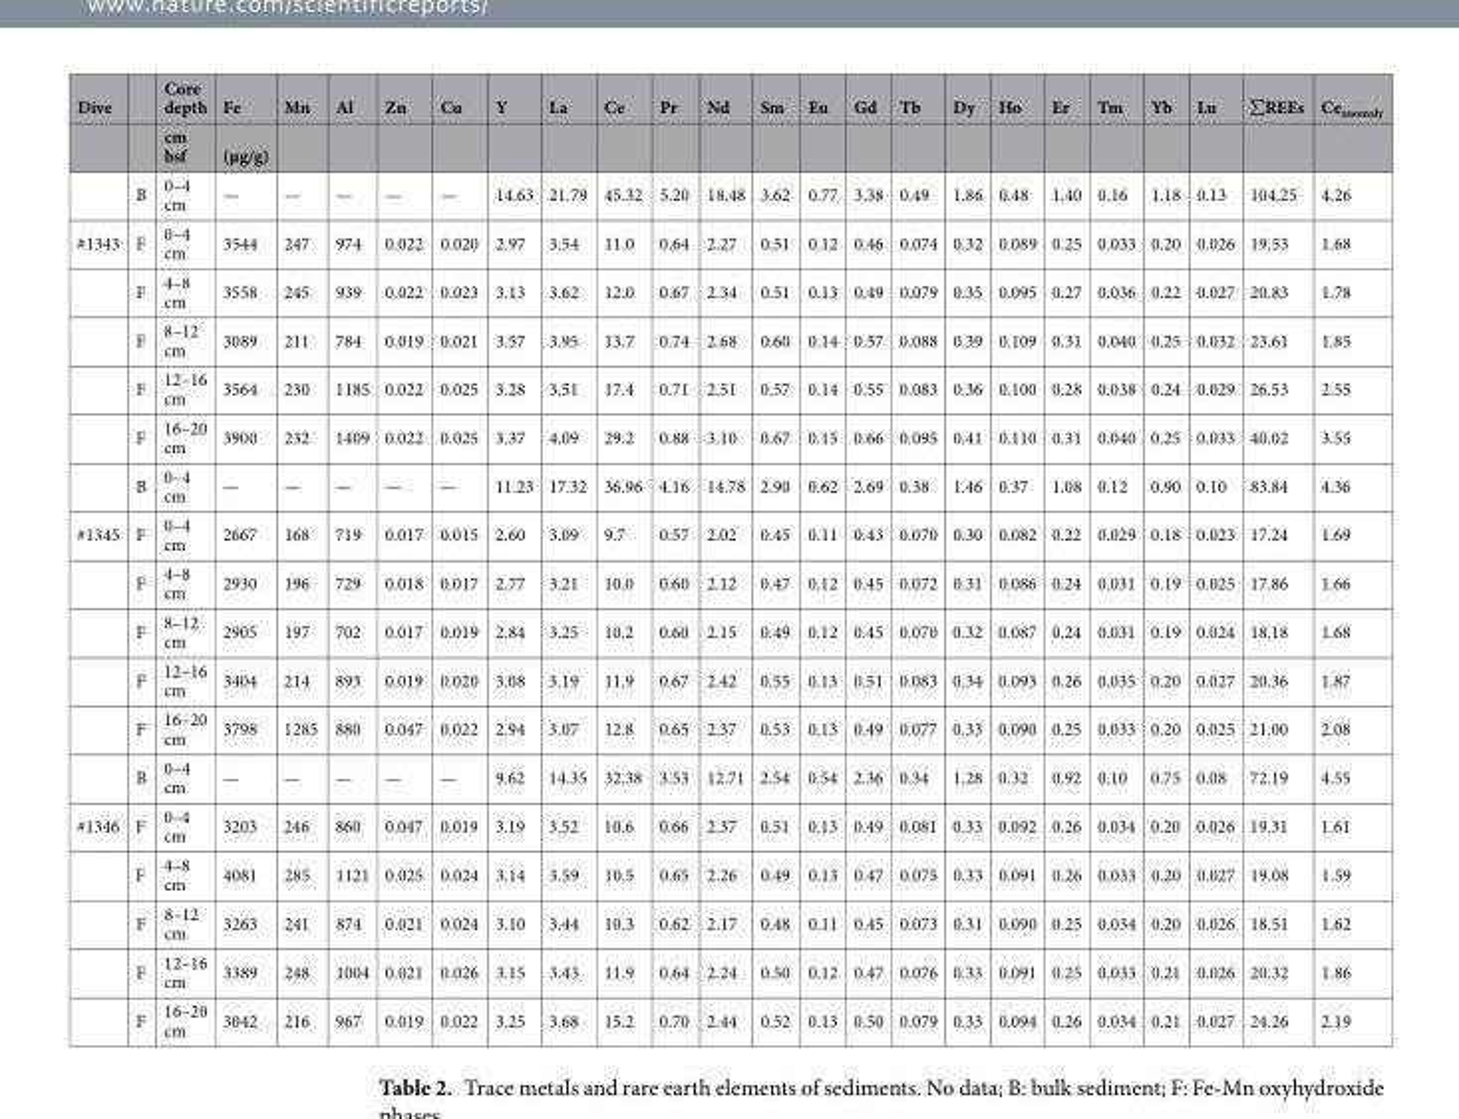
<table><thead><tr><td rowspan="2">Dive</td><td rowspan="2"></td><td rowspan="2">Core depth cm bsf</td><td rowspan="2">Fe (µg/g)</td><td rowspan="2">Mn</td><td rowspan="2">Al</td><td rowspan="2">Zn</td><td rowspan="2">Cu</td><td rowspan="2">Y</td><td rowspan="2">La</td><td rowspan="2">Ce</td><td rowspan="2">Pr</td><td rowspan="2">Nd</td><td rowspan="2">Sm</td><td rowspan="2">Eu</td><td rowspan="2">Gd</td><td rowspan="2">Tb</td><td rowspan="2">Dy</td><td rowspan="2">Ho</td><td rowspan="2">Er</td><td rowspan="2">Tm</td><td rowspan="2">Yb</td><td rowspan="2">Lu</td><td rowspan="2">∑REEs</td><td rowspan="2">Ce<sub>anomaly</sub></td></tr><tr></tr></thead><tbody><tr><td></td><td>B</td><td>0–4 cm</td><td>—</td><td>—</td><td>—</td><td>—</td><td>—</td><td>14.63</td><td>21.79</td><td>45.32</td><td>5.20</td><td>18.48</td><td>3.62</td><td>0.77</td><td>3.38</td><td>0.49</td><td>1.86</td><td>0.48</td><td>1.40</td><td>0.16</td><td>1.18</td><td>0.13</td><td>104.25</td><td>4.26</td></tr><tr><td rowspan="6">#1343</td><td>F</td><td>0–4 cm</td><td>3544</td><td>247</td><td>974</td><td>0.022</td><td>0.020</td><td>2.97</td><td>3.54</td><td>11.0</td><td>0.64</td><td>2.27</td><td>0.51</td><td>0.12</td><td>0.46</td><td>0.074</td><td>0.32</td><td>0.089</td><td>0.25</td><td>0.033</td><td>0.20</td><td>0.026</td><td>19.53</td><td>1.68</td></tr><tr><td>F</td><td>4–8 cm</td><td>3558</td><td>245</td><td>939</td><td>0.022</td><td>0.023</td><td>3.13</td><td>3.62</td><td>12.0</td><td>0.67</td><td>2.34</td><td>0.51</td><td>0.13</td><td>0.49</td><td>0.079</td><td>0.35</td><td>0.095</td><td>0.27</td><td>0.036</td><td>0.22</td><td>0.027</td><td>20.83</td><td>1.78</td></tr><tr><td>F</td><td>8–12 cm</td><td>3089</td><td>211</td><td>784</td><td>0.019</td><td>0.021</td><td>3.57</td><td>3.95</td><td>13.7</td><td>0.74</td><td>2.68</td><td>0.60</td><td>0.14</td><td>0.57</td><td>0.088</td><td>0.39</td><td>0.109</td><td>0.31</td><td>0.040</td><td>0.25</td><td>0.032</td><td>23.61</td><td>1.85</td></tr><tr><td>F</td><td>12–16 cm</td><td>3564</td><td>230</td><td>1185</td><td>0.022</td><td>0.025</td><td>3.28</td><td>3.51</td><td>17.4</td><td>0.71</td><td>2.51</td><td>0.57</td><td>0.14</td><td>0.55</td><td>0.083</td><td>0.36</td><td>0.100</td><td>0.28</td><td>0.038</td><td>0.24</td><td>0.029</td><td>26.53</td><td>2.55</td></tr><tr><td>F</td><td>16–20 cm</td><td>3900</td><td>232</td><td>1409</td><td>0.022</td><td>0.025</td><td>3.37</td><td>4.09</td><td>29.2</td><td>0.88</td><td>3.10</td><td>0.67</td><td>0.15</td><td>0.66</td><td>0.095</td><td>0.41</td><td>0.110</td><td>0.31</td><td>0.040</td><td>0.25</td><td>0.033</td><td>40.02</td><td>3.55</td></tr><tr><td>B</td><td>0–4 cm</td><td>—</td><td>—</td><td>—</td><td>—</td><td>—</td><td>11.23</td><td>17.32</td><td>36.96</td><td>4.16</td><td>14.78</td><td>2.90</td><td>0.62</td><td>2.69</td><td>0.38</td><td>1.46</td><td>0.37</td><td>1.08</td><td>0.12</td><td>0.90</td><td>0.10</td><td>83.84</td><td>4.36</td></tr><tr><td rowspan="6">#1345</td><td>F</td><td>0–4 cm</td><td>2667</td><td>168</td><td>719</td><td>0.017</td><td>0.015</td><td>2.60</td><td>3.09</td><td>9.7</td><td>0.57</td><td>2.02</td><td>0.45</td><td>0.11</td><td>0.43</td><td>0.070</td><td>0.30</td><td>0.082</td><td>0.22</td><td>0.029</td><td>0.18</td><td>0.023</td><td>17.24</td><td>1.69</td></tr><tr><td>F</td><td>4–8 cm</td><td>2930</td><td>196</td><td>729</td><td>0.018</td><td>0.017</td><td>2.77</td><td>3.21</td><td>10.0</td><td>0.60</td><td>2.12</td><td>0.47</td><td>0.12</td><td>0.45</td><td>0.072</td><td>0.31</td><td>0.086</td><td>0.24</td><td>0.031</td><td>0.19</td><td>0.025</td><td>17.86</td><td>1.66</td></tr><tr><td>F</td><td>8–12 cm</td><td>2905</td><td>197</td><td>702</td><td>0.017</td><td>0.019</td><td>2.84</td><td>3.25</td><td>10.2</td><td>0.60</td><td>2.15</td><td>0.49</td><td>0.12</td><td>0.45</td><td>0.070</td><td>0.32</td><td>0.087</td><td>0.24</td><td>0.031</td><td>0.19</td><td>0.024</td><td>18.18</td><td>1.68</td></tr><tr><td>F</td><td>12–16 cm</td><td>3404</td><td>214</td><td>893</td><td>0.019</td><td>0.020</td><td>3.08</td><td>3.19</td><td>11.9</td><td>0.67</td><td>2.42</td><td>0.55</td><td>0.13</td><td>0.51</td><td>0.083</td><td>0.34</td><td>0.093</td><td>0.26</td><td>0.035</td><td>0.20</td><td>0.027</td><td>20.36</td><td>1.87</td></tr><tr><td>F</td><td>16–20 cm</td><td>3798</td><td>1285</td><td>880</td><td>0.047</td><td>0.022</td><td>2.94</td><td>3.07</td><td>12.8</td><td>0.65</td><td>2.37</td><td>0.53</td><td>0.13</td><td>0.49</td><td>0.077</td><td>0.33</td><td>0.090</td><td>0.25</td><td>0.033</td><td>0.20</td><td>0.025</td><td>21.00</td><td>2.08</td></tr><tr><td>B</td><td>0–4 cm</td><td>—</td><td>—</td><td>—</td><td>—</td><td>—</td><td>9.62</td><td>14.35</td><td>32.38</td><td>3.53</td><td>12.71</td><td>2.54</td><td>0.54</td><td>2.36</td><td>0.34</td><td>1.28</td><td>0.32</td><td>0.92</td><td>0.10</td><td>0.75</td><td>0.08</td><td>72.19</td><td>4.55</td></tr><tr><td rowspan="5">#1346</td><td>F</td><td>0–4 cm</td><td>3203</td><td>246</td><td>860</td><td>0.047</td><td>0.019</td><td>3.19</td><td>3.52</td><td>10.6</td><td>0.66</td><td>2.37</td><td>0.51</td><td>0.13</td><td>0.49</td><td>0.081</td><td>0.33</td><td>0.092</td><td>0.26</td><td>0.034</td><td>0.20</td><td>0.026</td><td>19.31</td><td>1.61</td></tr><tr><td>F</td><td>4–8 cm</td><td>4081</td><td>285</td><td>1121</td><td>0.025</td><td>0.024</td><td>3.14</td><td>3.59</td><td>10.5</td><td>0.65</td><td>2.26</td><td>0.49</td><td>0.13</td><td>0.47</td><td>0.075</td><td>0.33</td><td>0.091</td><td>0.26</td><td>0.033</td><td>0.20</td><td>0.027</td><td>19.08</td><td>1.59</td></tr><tr><td>F</td><td>8–12 cm</td><td>3263</td><td>241</td><td>874</td><td>0.021</td><td>0.024</td><td>3.10</td><td>3.44</td><td>10.3</td><td>0.62</td><td>2.17</td><td>0.48</td><td>0.11</td><td>0.45</td><td>0.073</td><td>0.31</td><td>0.090</td><td>0.25</td><td>0.034</td><td>0.20</td><td>0.026</td><td>18.51</td><td>1.62</td></tr><tr><td>F</td><td>12–16 cm</td><td>3389</td><td>248</td><td>1004</td><td>0.021</td><td>0.026</td><td>3.15</td><td>3.43</td><td>11.9</td><td>0.64</td><td>2.24</td><td>0.50</td><td>0.12</td><td>0.47</td><td>0.076</td><td>0.33</td><td>0.091</td><td>0.25</td><td>0.033</td><td>0.21</td><td>0.026</td><td>20.32</td><td>1.86</td></tr><tr><td>F</td><td>16–20 cm</td><td>3042</td><td>216</td><td>967</td><td>0.019</td><td>0.022</td><td>3.25</td><td>3.68</td><td>15.2</td><td>0.70</td><td>2.44</td><td>0.52</td><td>0.13</td><td>0.50</td><td>0.079</td><td>0.33</td><td>0.094</td><td>0.26</td><td>0.034</td><td>0.21</td><td>0.027</td><td>24.26</td><td>2.19</td></tr></tbody></table>